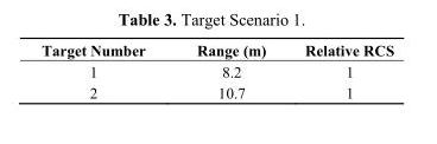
<table><thead><tr><td>Target Number</td><td>Range (m)</td><td>Relative RCS</td></tr></thead><tbody><tr><td>1</td><td>8.2</td><td>1</td></tr><tr><td>2</td><td>10.7</td><td>1</td></tr></tbody></table>